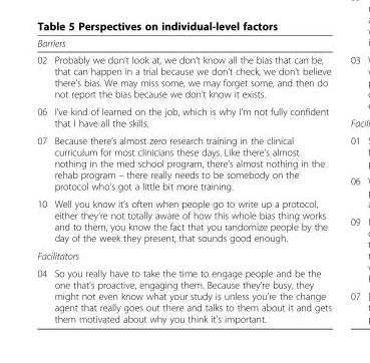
<table><thead><tr><td colspan="2">Barriers</td></tr><tr><td>02</td><td>Probably we don’t look at, we don’t know all the bias that can be, that can happen in a trial because we don’t check, we don’t believe there’s bias. We may miss some, we may forget some, and then do not report the bias because we don’t know it exists.</td></tr></thead><tbody><tr><td>06</td><td>I’ve kind of learned on the job, which is why I’m not fully confident that I have all the skills.</td></tr><tr><td>07</td><td>Because there’s almost zero research training in the clinical curriculum for most clinicians these days. Like there’s almost nothing in the med school program, there’s almost nothing in the rehab program – there really needs to be somebody on the protocol who’s got a little bit more training.</td></tr><tr><td>10</td><td>Well you know it’s often when people go to write up a protocol, either they’re not totally aware of how this whole bias thing works and to them, you know the fact that you randomize people by the day of the week they present, that sounds good enough.</td></tr><tr><td colspan="2">Facilitators</td></tr><tr><td>04</td><td>So you really have to take the time to engage people and be the one that’s proactive, engaging them. Because they’re busy, they might not even know what your study is unless you’re the change agent that really goes out there and talks to them about it and gets them motivated about why you think it’s important.</td></tr></tbody></table>